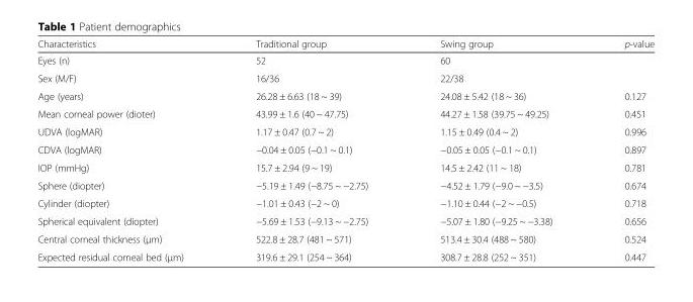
<table><thead><tr><td>Characteristics</td><td>Traditional group</td><td>Swing group</td><td>p-value</td></tr></thead><tbody><tr><td>Eyes (n)</td><td>52</td><td>60</td><td></td></tr><tr><td>Sex (M/F)</td><td>16/36</td><td>22/38</td><td></td></tr><tr><td>Age (years)</td><td>26.28 ± 6.63 (18 ~ 39)</td><td>24.08 ± 5.42 (18 ~ 36)</td><td>0.127</td></tr><tr><td>Mean corneal power (dioter)</td><td>43.99 ± 1.6 (40 ~ 47.75)</td><td>44.27 ± 1.58 (39.75 ~ 49.25)</td><td>0.451</td></tr><tr><td>UDVA (logMAR)</td><td>1.17 ± 0.47 (0.7 ~ 2)</td><td>1.15 ± 0.49 (0.4 ~ 2)</td><td>0.996</td></tr><tr><td>CDVA (logMAR)</td><td>−0.04 ± 0.05 (−0.1 ~ 0.1)</td><td>−0.05 ± 0.05 (−0.1 ~ 0.1)</td><td>0.897</td></tr><tr><td>IOP (mmHg)</td><td>15.7 ± 2.94 (9 ~ 19)</td><td>14.5 ± 2.42 (11 ~ 18)</td><td>0.781</td></tr><tr><td>Sphere (diopter)</td><td>−5.19 ± 1.49 (−8.75 ~ −2.75)</td><td>−4.52 ± 1.79 (−9.0 ~ −3.5)</td><td>0.674</td></tr><tr><td>Cylinder (diopter)</td><td>−1.01 ± 0.43 (−2 ~ 0)</td><td>−1.10 ± 0.44 (−2 ~ −0.5)</td><td>0.718</td></tr><tr><td>Spherical equivalent (diopter)</td><td>−5.69 ± 1.53 (−9.13 ~ −2.75)</td><td>−5.07 ± 1.80 (−9.25 ~ −3.38)</td><td>0.656</td></tr><tr><td>Central corneal thickness (μm)</td><td>522.8 ± 28.7 (481 ~ 571)</td><td>513.4 ± 30.4 (488 ~ 580)</td><td>0.524</td></tr><tr><td>Expected residual corneal bed (μm)</td><td>319.6 ± 29.1 (254 ~ 364)</td><td>308.7 ± 28.8 (252 ~ 351)</td><td>0.447</td></tr></tbody></table>